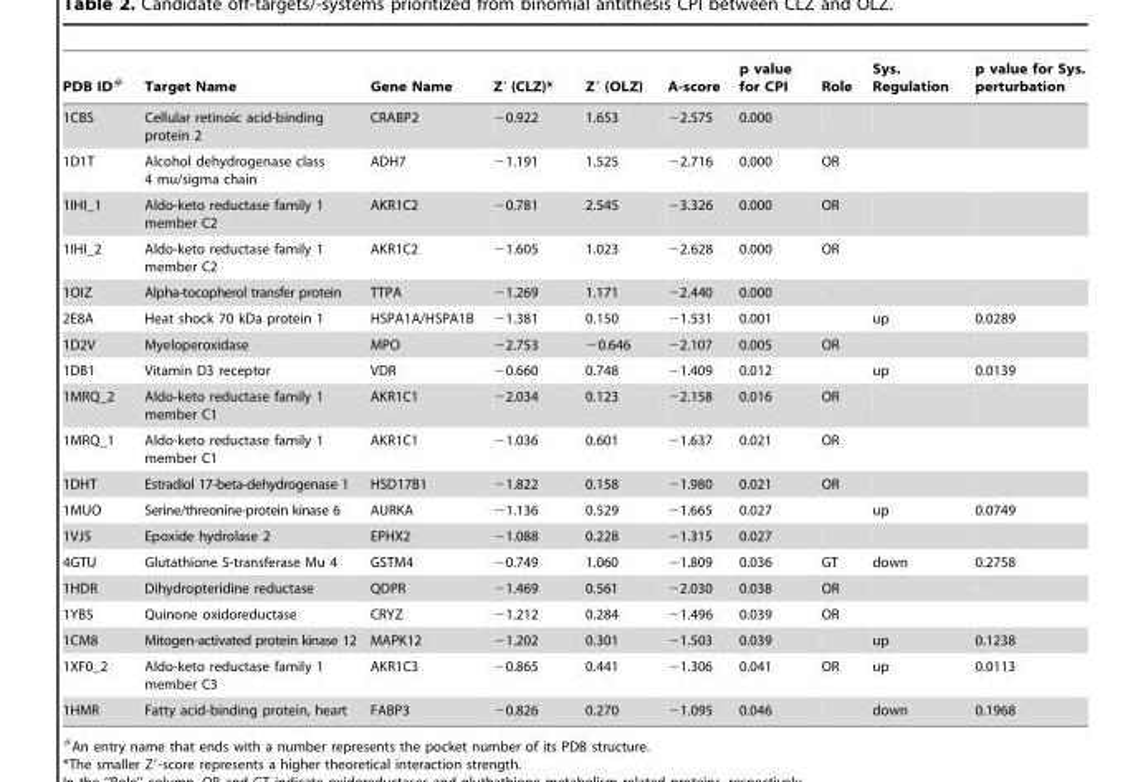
<table><thead><tr><td>PDB ID#</td><td>Target Name</td><td>Gene Name</td><td>Z′ (CLZ)*</td><td>Z′ (OLZ)</td><td>A-score</td><td>p value for CPI</td><td>Role</td><td>Sys. Regulation</td><td>p value for Sys. perturbation</td></tr></thead><tbody><tr><td>1CBS</td><td>Cellular retinoic acid-binding protein 2</td><td>CRABP2</td><td>−0.922</td><td>1.653</td><td>−2.575</td><td>0.000</td><td></td><td></td><td></td></tr><tr><td>1D1T</td><td>Alcohol dehydrogenase class 4 mu/sigma chain</td><td>ADH7</td><td>−1.191</td><td>1.525</td><td>−2.716</td><td>0.000</td><td>OR</td><td></td><td></td></tr><tr><td>1IHI_1</td><td>Aldo-keto reductase family 1 member C2</td><td>AKR1C2</td><td>−0.781</td><td>2.545</td><td>−3.326</td><td>0.000</td><td>OR</td><td></td><td></td></tr><tr><td>1IHI_2</td><td>Aldo-keto reductase family 1 member C2</td><td>AKR1C2</td><td>−1.605</td><td>1.023</td><td>−2.628</td><td>0.000</td><td>OR</td><td></td><td></td></tr><tr><td>1OIZ</td><td>Alpha-tocopherol transfer protein</td><td>TTPA</td><td>−1.269</td><td>1.171</td><td>−2.440</td><td>0.000</td><td></td><td></td><td></td></tr><tr><td>2E8A</td><td>Heat shock 70 kDa protein 1</td><td>HSPA1A/HSPA1B</td><td>−1.381</td><td>0.150</td><td>−1.531</td><td>0.001</td><td></td><td>up</td><td>0.0289</td></tr><tr><td>1D2V</td><td>Myeloperoxidase</td><td>MPO</td><td>−2.753</td><td>−0.646</td><td>−2.107</td><td>0.005</td><td>OR</td><td></td><td></td></tr><tr><td>1DB1</td><td>Vitamin D3 receptor</td><td>VDR</td><td>−0.660</td><td>0.748</td><td>−1.409</td><td>0.012</td><td></td><td>up</td><td>0.0139</td></tr><tr><td>1MRQ_2</td><td>Aldo-keto reductase family 1 member C1</td><td>AKR1C1</td><td>−2.034</td><td>0.123</td><td>−2.158</td><td>0.016</td><td>OR</td><td></td><td></td></tr><tr><td>1MRQ_1</td><td>Aldo-keto reductase family 1 member C1</td><td>AKR1C1</td><td>−1.036</td><td>0.601</td><td>−1.637</td><td>0.021</td><td>OR</td><td></td><td></td></tr><tr><td>1DHT</td><td>Estradiol 17-beta-dehydrogenase 1</td><td>HSD17B1</td><td>−1.822</td><td>0.158</td><td>−1.980</td><td>0.021</td><td>OR</td><td></td><td></td></tr><tr><td>1MUO</td><td>Serine/threonine-protein kinase 6</td><td>AURKA</td><td>−1.136</td><td>0.529</td><td>−1.665</td><td>0.027</td><td></td><td>up</td><td>0.0749</td></tr><tr><td>1VJ5</td><td>Epoxide hydrolase 2</td><td>EPHX2</td><td>−1.088</td><td>0.228</td><td>−1.315</td><td>0.027</td><td></td><td></td><td></td></tr><tr><td>4GTU</td><td>Glutathione S-transferase Mu 4</td><td>GSTM4</td><td>−0.749</td><td>1.060</td><td>−1.809</td><td>0.036</td><td>GT</td><td>down</td><td>0.2758</td></tr><tr><td>1HDR</td><td>Dihydropteridine reductase</td><td>QDPR</td><td>−1.469</td><td>0.561</td><td>−2.030</td><td>0.038</td><td>OR</td><td></td><td></td></tr><tr><td>1YB5</td><td>Quinone oxidoreductase</td><td>CRYZ</td><td>−1.212</td><td>0.284</td><td>−1.496</td><td>0.039</td><td>OR</td><td></td><td></td></tr><tr><td>1CM8</td><td>Mitogen-activated protein kinase 12</td><td>MAPK12</td><td>−1.202</td><td>0.301</td><td>−1.503</td><td>0.039</td><td></td><td>up</td><td>0.1238</td></tr><tr><td>1XF0_2</td><td>Aldo-keto reductase family 1 member C3</td><td>AKR1C3</td><td>−0.865</td><td>0.441</td><td>−1.306</td><td>0.041</td><td>OR</td><td>up</td><td>0.0113</td></tr><tr><td>1HMR</td><td>Fatty acid-binding protein, heart</td><td>FABP3</td><td>−0.826</td><td>0.270</td><td>−1.095</td><td>0.046</td><td></td><td>down</td><td>0.1968</td></tr></tbody></table>